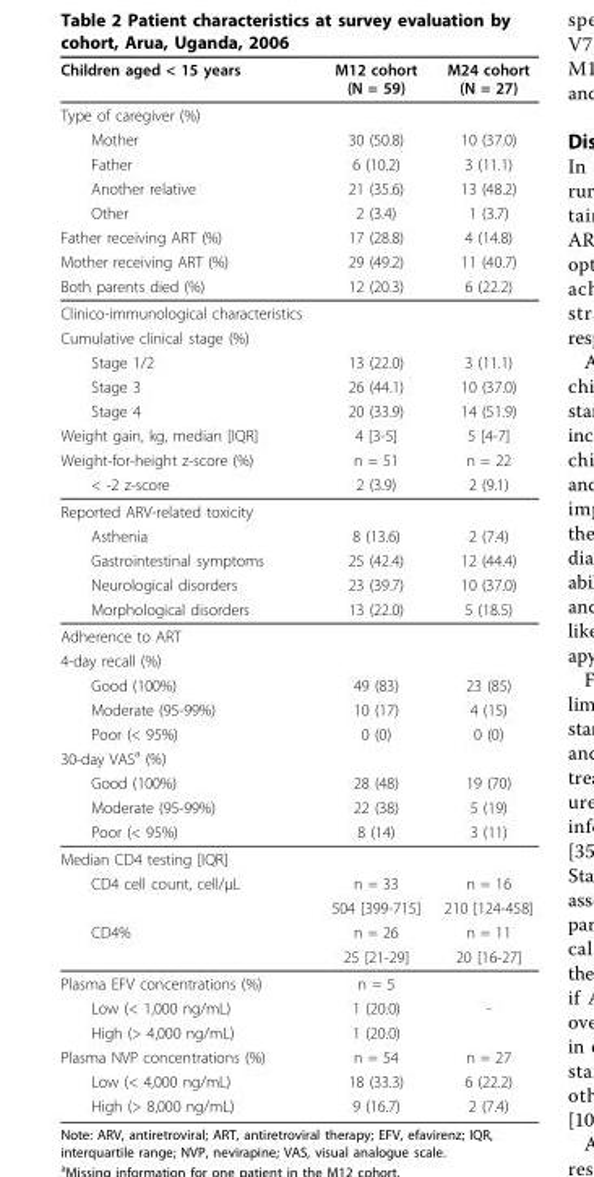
<table><thead><tr><td>Children aged &lt; 15 years</td><td>M12 cohort (N = 59)</td><td>M24 cohort (N = 27)</td></tr></thead><tbody><tr><td colspan="3">Type of caregiver (%)</td></tr><tr><td>Mother</td><td>30 (50.8)</td><td>10 (37.0)</td></tr><tr><td>Father</td><td>6 (10.2)</td><td>3 (11.1)</td></tr><tr><td>Another relative</td><td>21 (35.6)</td><td>13 (48.2)</td></tr><tr><td>Other</td><td>2 (3.4)</td><td>1 (3.7)</td></tr><tr><td>Father receiving ART (%)</td><td>17 (28.8)</td><td>4 (14.8)</td></tr><tr><td>Mother receiving ART (%)</td><td>29 (49.2)</td><td>11 (40.7)</td></tr><tr><td>Both parents died (%)</td><td>12 (20.3)</td><td>6 (22.2)</td></tr><tr><td colspan="3">Clinico-immunological characteristics</td></tr><tr><td colspan="3">Cumulative clinical stage (%)</td></tr><tr><td>Stage 1/2</td><td>13 (22.0)</td><td>3 (11.1)</td></tr><tr><td>Stage 3</td><td>26 (44.1)</td><td>10 (37.0)</td></tr><tr><td>Stage 4</td><td>20 (33.9)</td><td>14 (51.9)</td></tr><tr><td>Weight gain, kg, median [IQR]</td><td>4 [3-5]</td><td>5 [4-7]</td></tr><tr><td>Weight-for-height z-score (%)</td><td>n = 51</td><td>n = 22</td></tr><tr><td>&lt; -2 z-score</td><td>2 (3.9)</td><td>2 (9.1)</td></tr><tr><td colspan="3">Reported ARV-related toxicity</td></tr><tr><td>Asthenia</td><td>8 (13.6)</td><td>2 (7.4)</td></tr><tr><td>Gastrointestinal symptoms</td><td>25 (42.4)</td><td>12 (44.4)</td></tr><tr><td>Neurological disorders</td><td>23 (39.7)</td><td>10 (37.0)</td></tr><tr><td>Morphological disorders</td><td>13 (22.0)</td><td>5 (18.5)</td></tr><tr><td colspan="3">Adherence to ART</td></tr><tr><td colspan="3">4-day recall (%)</td></tr><tr><td>Good (100%)</td><td>49 (83)</td><td>23 (85)</td></tr><tr><td>Moderate (95-99%)</td><td>10 (17)</td><td>4 (15)</td></tr><tr><td>Poor (&lt; 95%)</td><td>0 (0)</td><td>0 (0)</td></tr><tr><td colspan="3">30-day VAS<sup>a</sup> (%)</td></tr><tr><td>Good (100%)</td><td>28 (48)</td><td>19 (70)</td></tr><tr><td>Moderate (95-99%)</td><td>22 (38)</td><td>5 (19)</td></tr><tr><td>Poor (&lt; 95%)</td><td>8 (14)</td><td>3 (11)</td></tr><tr><td colspan="3">Median CD4 testing [IQR]</td></tr><tr><td rowspan="2">CD4 cell count, cell/μL</td><td>n = 33</td><td>n = 16</td></tr><tr><td>504 [399-715]</td><td>210 [124-458]</td></tr><tr><td rowspan="2">CD4%</td><td>n = 26</td><td>n = 11</td></tr><tr><td>25 [21-29]</td><td>20 [16-27]</td></tr><tr><td>Plasma EFV concentrations (%)</td><td>n = 5</td><td></td></tr><tr><td>Low (&lt; 1,000 ng/mL)</td><td>1 (20.0)</td><td>-</td></tr><tr><td>High (&gt; 4,000 ng/mL)</td><td>1 (20.0)</td><td></td></tr><tr><td>Plasma NVP concentrations (%)</td><td>n = 54</td><td>n = 27</td></tr><tr><td>Low (&lt; 4,000 ng/mL)</td><td>18 (33.3)</td><td>6 (22.2)</td></tr><tr><td>High (&gt; 8,000 ng/mL)</td><td>9 (16.7)</td><td>2 (7.4)</td></tr></tbody></table>